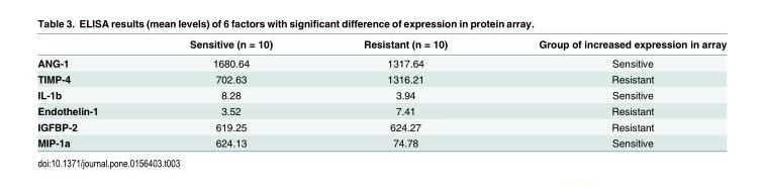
<table><thead><tr><td></td><td>Sensitive (n = 10)</td><td>Resistant (n = 10)</td><td>Group of increased expression in array</td></tr></thead><tbody><tr><td>ANG-1</td><td>1680.64</td><td>1317.64</td><td>Sensitive</td></tr><tr><td>TIMP-4</td><td>702.63</td><td>1316.21</td><td>Resistant</td></tr><tr><td>IL-1b</td><td>8.28</td><td>3.94</td><td>Sensitive</td></tr><tr><td>Endothelin-1</td><td>3.52</td><td>7.41</td><td>Resistant</td></tr><tr><td>IGFBP-2</td><td>619.25</td><td>624.27</td><td>Resistant</td></tr><tr><td>MIP-1a</td><td>624.13</td><td>74.78</td><td>Sensitive</td></tr></tbody></table>